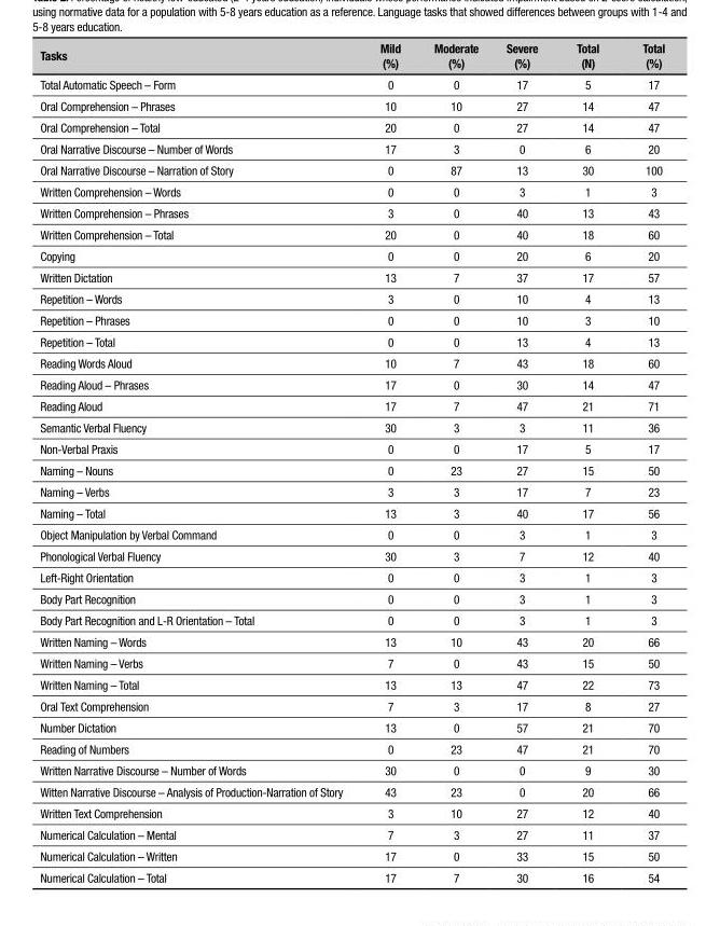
<table><thead><tr><td>Tasks</td><td>Mild (%)</td><td>Moderate (%)</td><td>Severe (%)</td><td>Total (N)</td><td>Total (%)</td></tr></thead><tbody><tr><td>Total Automatic Speech – Form</td><td>0</td><td>0</td><td>17</td><td>5</td><td>17</td></tr><tr><td>Oral Comprehension – Phrases</td><td>10</td><td>10</td><td>27</td><td>14</td><td>47</td></tr><tr><td>Oral Comprehension – Total</td><td>20</td><td>0</td><td>27</td><td>14</td><td>47</td></tr><tr><td>Oral Narrative Discourse – Number of Words</td><td>17</td><td>3</td><td>0</td><td>6</td><td>20</td></tr><tr><td>Oral Narrative Discourse – Narration of Story</td><td>0</td><td>87</td><td>13</td><td>30</td><td>100</td></tr><tr><td>Written Comprehension – Words</td><td>0</td><td>0</td><td>3</td><td>1</td><td>3</td></tr><tr><td>Written Comprehension – Phrases</td><td>3</td><td>0</td><td>40</td><td>13</td><td>43</td></tr><tr><td>Written Comprehension – Total</td><td>20</td><td>0</td><td>40</td><td>18</td><td>60</td></tr><tr><td>Copying</td><td>0</td><td>0</td><td>20</td><td>6</td><td>20</td></tr><tr><td>Written Dictation</td><td>13</td><td>7</td><td>37</td><td>17</td><td>57</td></tr><tr><td>Repetition – Words</td><td>3</td><td>0</td><td>10</td><td>4</td><td>13</td></tr><tr><td>Repetition – Phrases</td><td>0</td><td>0</td><td>10</td><td>3</td><td>10</td></tr><tr><td>Repetition – Total</td><td>0</td><td>0</td><td>13</td><td>4</td><td>13</td></tr><tr><td>Reading Words Aloud</td><td>10</td><td>7</td><td>43</td><td>18</td><td>60</td></tr><tr><td>Reading Aloud – Phrases</td><td>17</td><td>0</td><td>30</td><td>14</td><td>47</td></tr><tr><td>Reading Aloud</td><td>17</td><td>7</td><td>47</td><td>21</td><td>71</td></tr><tr><td>Semantic Verbal Fluency</td><td>30</td><td>3</td><td>3</td><td>11</td><td>36</td></tr><tr><td>Non-Verbal Praxis</td><td>0</td><td>0</td><td>17</td><td>5</td><td>17</td></tr><tr><td>Naming – Nouns</td><td>0</td><td>23</td><td>27</td><td>15</td><td>50</td></tr><tr><td>Naming – Verbs</td><td>3</td><td>3</td><td>17</td><td>7</td><td>23</td></tr><tr><td>Naming – Total</td><td>13</td><td>3</td><td>40</td><td>17</td><td>56</td></tr><tr><td>Object Manipulation by Verbal Command</td><td>0</td><td>0</td><td>3</td><td>1</td><td>3</td></tr><tr><td>Phonological Verbal Fluency</td><td>30</td><td>3</td><td>7</td><td>12</td><td>40</td></tr><tr><td>Left-Right Orientation</td><td>0</td><td>0</td><td>3</td><td>1</td><td>3</td></tr><tr><td>Body Part Recognition</td><td>0</td><td>0</td><td>3</td><td>1</td><td>3</td></tr><tr><td>Body Part Recognition and L-R Orientation – Total</td><td>0</td><td>0</td><td>3</td><td>1</td><td>3</td></tr><tr><td>Written Naming – Words</td><td>13</td><td>10</td><td>43</td><td>20</td><td>66</td></tr><tr><td>Written Naming – Verbs</td><td>7</td><td>0</td><td>43</td><td>15</td><td>50</td></tr><tr><td>Written Naming – Total</td><td>13</td><td>13</td><td>47</td><td>22</td><td>73</td></tr><tr><td>Oral Text Comprehension</td><td>7</td><td>3</td><td>17</td><td>8</td><td>27</td></tr><tr><td>Number Dictation</td><td>13</td><td>0</td><td>57</td><td>21</td><td>70</td></tr><tr><td>Reading of Numbers</td><td>0</td><td>23</td><td>47</td><td>21</td><td>70</td></tr><tr><td>Written Narrative Discourse – Number of Words</td><td>30</td><td>0</td><td>0</td><td>9</td><td>30</td></tr><tr><td>Witten Narrative Discourse – Analysis of Production-Narration of Story</td><td>43</td><td>23</td><td>0</td><td>20</td><td>66</td></tr><tr><td>Written Text Comprehension</td><td>3</td><td>10</td><td>27</td><td>12</td><td>40</td></tr><tr><td>Numerical Calculation – Mental</td><td>7</td><td>3</td><td>27</td><td>11</td><td>37</td></tr><tr><td>Numerical Calculation – Written</td><td>17</td><td>0</td><td>33</td><td>15</td><td>50</td></tr><tr><td>Numerical Calculation – Total</td><td>17</td><td>7</td><td>30</td><td>16</td><td>54</td></tr></tbody></table>